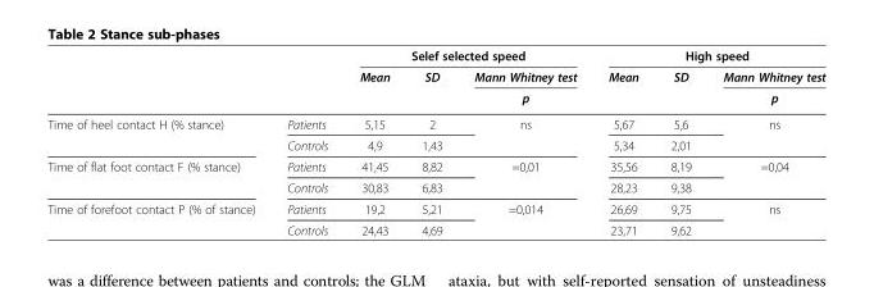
<table><thead><tr><td rowspan="3"></td><td rowspan="3"></td><td colspan="3">Selef selected speed</td><td colspan="3">High speed</td></tr><tr><td rowspan="2">Mean</td><td rowspan="2">SD</td><td rowspan="2">Mann Whitney test p</td><td rowspan="2">Mean</td><td rowspan="2">SD</td><td rowspan="2">Mann Whitney test p</td></tr><tr></tr></thead><tbody><tr><td rowspan="2">Time of heel contact H (% stance)</td><td>Patients</td><td>5,15</td><td>2</td><td>ns</td><td>5,67</td><td>5,6</td><td>ns</td></tr><tr><td>Controls</td><td>4,9</td><td>1,43</td><td></td><td>5,34</td><td>2,01</td><td></td></tr><tr><td rowspan="2">Time of flat foot contact F (% stance)</td><td>Patients</td><td>41,45</td><td>8,82</td><td>=0,01</td><td>35,56</td><td>8,19</td><td>=0,04</td></tr><tr><td>Controls</td><td>30,83</td><td>6,83</td><td></td><td>28,23</td><td>9,38</td><td></td></tr><tr><td rowspan="2">Time of forefoot contact P (% of stance)</td><td>Patients</td><td>19,2</td><td>5,21</td><td>=0,014</td><td>26,69</td><td>9,75</td><td>ns</td></tr><tr><td>Controls</td><td>24,43</td><td>4,69</td><td></td><td>23,71</td><td>9,62</td><td></td></tr></tbody></table>